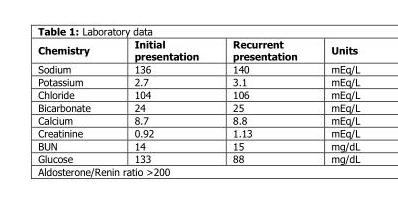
<table><thead><tr><td>Chemistry</td><td>Initial presentation</td><td>Recurrent presentation</td><td>Units</td></tr></thead><tbody><tr><td>Sodium</td><td>136</td><td>140</td><td>mEq/L</td></tr><tr><td>Potassium</td><td>2.7</td><td>3.1</td><td>mEq/L</td></tr><tr><td>Chloride</td><td>104</td><td>106</td><td>mEq/L</td></tr><tr><td>Bicarbonate</td><td>24</td><td>25</td><td>mEq/L</td></tr><tr><td>Calcium</td><td>8.7</td><td>8.8</td><td>mEq/L</td></tr><tr><td>Creatinine</td><td>0.92</td><td>1.13</td><td>mEq/L</td></tr><tr><td>BUN</td><td>14</td><td>15</td><td>mg/dL</td></tr><tr><td>Glucose</td><td>133</td><td>88</td><td>mg/dL</td></tr></tbody></table>